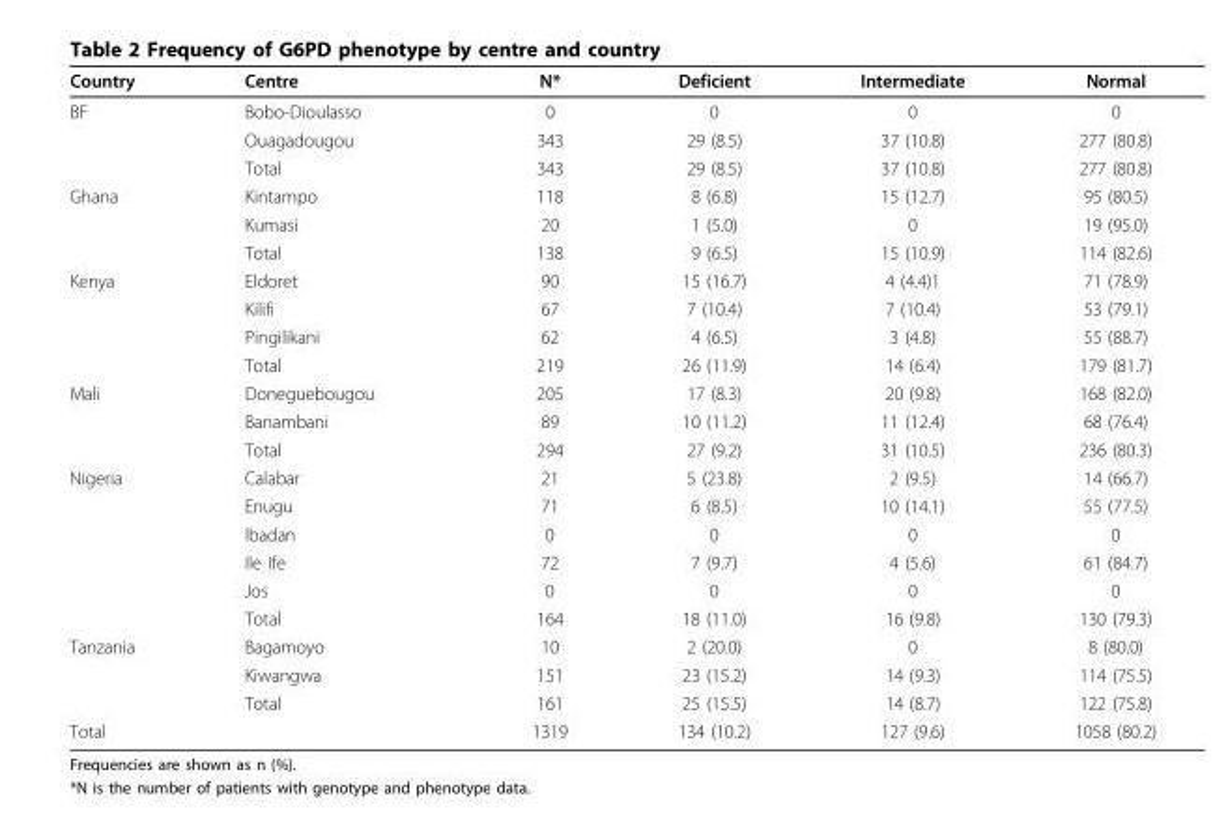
<table><thead><tr><td>Country</td><td>Centre</td><td>N*</td><td>Deficient</td><td>Intermediate</td><td>Normal</td></tr></thead><tbody><tr><td rowspan="3">BF</td><td>Bobo-Dioulasso</td><td>0</td><td>0</td><td>0</td><td>0</td></tr><tr><td>Ouagadougou</td><td>343</td><td>29 (8.5)</td><td>37 (10.8)</td><td>277 (80.8)</td></tr><tr><td>Total</td><td>343</td><td>29 (8.5)</td><td>37 (10.8)</td><td>277 (80.8)</td></tr><tr><td rowspan="3">Ghana</td><td>Kintampo</td><td>118</td><td>8 (6.8)</td><td>15 (12.7)</td><td>95 (80.5)</td></tr><tr><td>Kumasi</td><td>20</td><td>1 (5.0)</td><td>0</td><td>19 (95.0)</td></tr><tr><td>Total</td><td>138</td><td>9 (6.5)</td><td>15 (10.9)</td><td>114 (82.6)</td></tr><tr><td rowspan="4">Kenya</td><td>Eldoret</td><td>90</td><td>15 (16.7)</td><td>4 (4.4)1</td><td>71 (78.9)</td></tr><tr><td>Kilifi</td><td>67</td><td>7 (10.4)</td><td>7 (10.4)</td><td>53 (79.1)</td></tr><tr><td>Pingilikani</td><td>62</td><td>4 (6.5)</td><td>3 (4.8)</td><td>55 (88.7)</td></tr><tr><td>Total</td><td>219</td><td>26 (11.9)</td><td>14 (6.4)</td><td>179 (81.7)</td></tr><tr><td rowspan="3">Mali</td><td>Doneguebougou</td><td>205</td><td>17 (8.3)</td><td>20 (9.8)</td><td>168 (82.0)</td></tr><tr><td>Banambani</td><td>89</td><td>10 (11.2)</td><td>11 (12.4)</td><td>68 (76.4)</td></tr><tr><td>Total</td><td>294</td><td>27 (9.2)</td><td>31 (10.5)</td><td>236 (80.3)</td></tr><tr><td rowspan="6">Nigeria</td><td>Calabar</td><td>21</td><td>5 (23.8)</td><td>2 (9.5)</td><td>14 (66.7)</td></tr><tr><td>Enugu</td><td>71</td><td>6 (8.5)</td><td>10 (14.1)</td><td>55 (77.5)</td></tr><tr><td>Ibadan</td><td>0</td><td>0</td><td>0</td><td>0</td></tr><tr><td>Ile Ife</td><td>72</td><td>7 (9.7)</td><td>4 (5.6)</td><td>61 (84.7)</td></tr><tr><td>Jos</td><td>0</td><td>0</td><td>0</td><td>0</td></tr><tr><td>Total</td><td>164</td><td>18 (11.0)</td><td>16 (9.8)</td><td>130 (79.3)</td></tr><tr><td rowspan="3">Tanzania</td><td>Bagamoyo</td><td>10</td><td>2 (20.0)</td><td>0</td><td>8 (80.0)</td></tr><tr><td>Kiwangwa</td><td>151</td><td>23 (15.2)</td><td>14 (9.3)</td><td>114 (75.5)</td></tr><tr><td>Total</td><td>161</td><td>25 (15.5)</td><td>14 (8.7)</td><td>122 (75.8)</td></tr><tr><td>Total</td><td></td><td>1319</td><td>134 (10.2)</td><td>127 (9.6)</td><td>1058 (80.2)</td></tr></tbody></table>